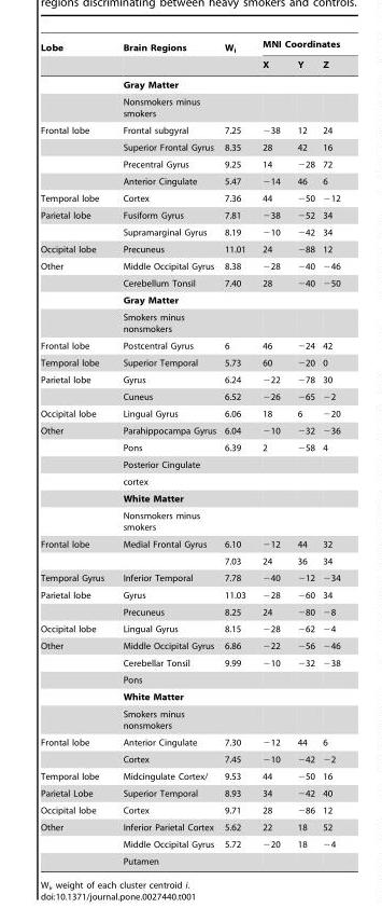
<table><thead><tr><td rowspan="2">Lobe</td><td rowspan="2">Brain Regions</td><td rowspan="2">W<sub>i</sub></td><td colspan="3">MNI Coordinates</td></tr><tr><td>X</td><td>Y</td><td>Z</td></tr></thead><tbody><tr><td></td><td>Gray Matter</td><td></td><td></td><td></td><td></td></tr><tr><td></td><td>Nonsmokers minus smokers</td><td></td><td></td><td></td><td></td></tr><tr><td rowspan="4">Frontal lobe</td><td>Frontal subgyral</td><td>7.25</td><td>−38</td><td>12</td><td>24</td></tr><tr><td>Superior Frontal Gyrus</td><td>8.35</td><td>28</td><td>42</td><td>16</td></tr><tr><td>Precentral Gyrus</td><td>9.25</td><td>14</td><td>−28</td><td>72</td></tr><tr><td>Anterior Cingulate</td><td>5.47</td><td>−14</td><td>46</td><td>6</td></tr><tr><td>Temporal lobe</td><td>Cortex</td><td>7.36</td><td>44</td><td>−50</td><td>−12</td></tr><tr><td rowspan="2">Parietal lobe</td><td>Fusiform Gyrus</td><td>7.81</td><td>−38</td><td>−52</td><td>34</td></tr><tr><td>Supramarginal Gyrus</td><td>8.19</td><td>−10</td><td>−42</td><td>34</td></tr><tr><td>Occipital lobe</td><td>Precuneus</td><td>11.01</td><td>24</td><td>−88</td><td>12</td></tr><tr><td rowspan="4">Other</td><td>Middle Occipital Gyrus</td><td>8.38</td><td>−28</td><td>−40</td><td>−46</td></tr><tr><td>Cerebellum Tonsil</td><td>7.40</td><td>28</td><td>−40</td><td>−50</td></tr><tr><td>Gray Matter</td><td></td><td></td><td></td><td></td></tr><tr><td>Smokers minus nonsmokers</td><td></td><td></td><td></td><td></td></tr><tr><td>Frontal lobe</td><td>Postcentral Gyrus</td><td>6</td><td>46</td><td>−24</td><td>42</td></tr><tr><td>Temporal lobe</td><td>Superior Temporal</td><td>5.73</td><td>60</td><td>−20</td><td>0</td></tr><tr><td rowspan="2">Parietal lobe</td><td>Gyrus</td><td>6.24</td><td>−22</td><td>−78</td><td>30</td></tr><tr><td>Cuneus</td><td>6.52</td><td>−26</td><td>−65</td><td>−2</td></tr><tr><td>Occipital lobe</td><td>Lingual Gyrus</td><td>6.06</td><td>18</td><td>6</td><td>−20</td></tr><tr><td rowspan="6">Other</td><td>Parahippocampa Gyrus</td><td>6.04</td><td>−10</td><td>−32</td><td>−36</td></tr><tr><td>Pons</td><td>6.39</td><td>2</td><td>−58</td><td>4</td></tr><tr><td>Posterior Cingulate</td><td></td><td></td><td></td><td></td></tr><tr><td>cortex</td><td></td><td></td><td></td><td></td></tr><tr><td>White Matter</td><td></td><td></td><td></td><td></td></tr><tr><td>Nonsmokers minus smokers</td><td></td><td></td><td></td><td></td></tr><tr><td rowspan="2">Frontal lobe</td><td>Medial Frontal Gyrus</td><td>6.10</td><td>−12</td><td>44</td><td>32</td></tr><tr><td></td><td>7.03</td><td>24</td><td>36</td><td>34</td></tr><tr><td>Temporal Gyrus</td><td>Inferior Temporal</td><td>7.78</td><td>−40</td><td>−12</td><td>−34</td></tr><tr><td rowspan="2">Parietal lobe</td><td>Gyrus</td><td>11.03</td><td>−28</td><td>−60</td><td>34</td></tr><tr><td>Precuneus</td><td>8.25</td><td>24</td><td>−80</td><td>−8</td></tr><tr><td>Occipital lobe</td><td>Lingual Gyrus</td><td>8.15</td><td>−28</td><td>−62</td><td>−4</td></tr><tr><td rowspan="5">Other</td><td>Middle Occipital Gyrus</td><td>6.86</td><td>−22</td><td>−56</td><td>−46</td></tr><tr><td>Cerebellar Tonsil</td><td>9.99</td><td>−10</td><td>−32</td><td>−38</td></tr><tr><td>Pons</td><td></td><td></td><td></td><td></td></tr><tr><td>White Matter</td><td></td><td></td><td></td><td></td></tr><tr><td>Smokers minus nonsmokers</td><td></td><td></td><td></td><td></td></tr><tr><td rowspan="2">Frontal lobe</td><td>Anterior Cingulate</td><td>7.30</td><td>−12</td><td>44</td><td>6</td></tr><tr><td>Cortex</td><td>7.45</td><td>−10</td><td>−42</td><td>−2</td></tr><tr><td>Temporal lobe</td><td>Midcingulate Cortex/</td><td>9.53</td><td>44</td><td>−50</td><td>16</td></tr><tr><td>Parietal Lobe</td><td>Superior Temporal</td><td>8.93</td><td>34</td><td>−42</td><td>40</td></tr><tr><td>Occipital lobe</td><td>Cortex</td><td>9.71</td><td>28</td><td>−86</td><td>12</td></tr><tr><td rowspan="3">Other</td><td>Inferior Parietal Cortex</td><td>5.62</td><td>22</td><td>18</td><td>52</td></tr><tr><td>Middle Occipital Gyrus</td><td>5.72</td><td>−20</td><td>18</td><td>−4</td></tr><tr><td>Putamen</td><td></td><td></td><td></td><td></td></tr></tbody></table>